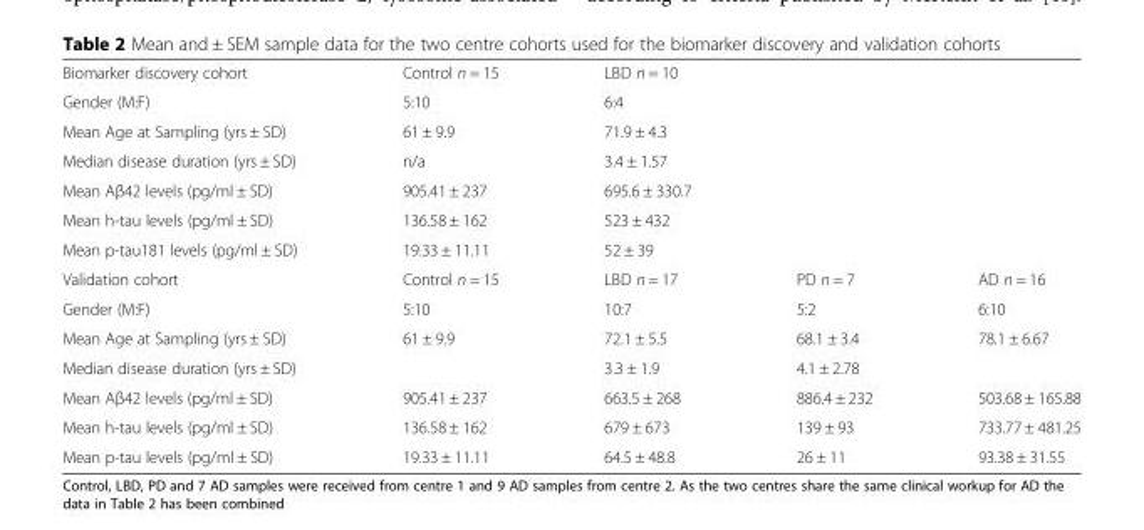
<table><tbody><tr><td>Biomarker discovery cohort</td><td>Control n = 15</td><td>LBD n = 10</td><td></td><td></td></tr><tr><td>Gender (M:F)</td><td>5:10</td><td>6:4</td><td></td><td></td></tr><tr><td>Mean Age at Sampling (yrs ± SD)</td><td>61 ± 9.9</td><td>71.9 ± 4.3</td><td></td><td></td></tr><tr><td>Median disease duration (yrs ± SD)</td><td>n/a</td><td>3.4 ± 1.57</td><td></td><td></td></tr><tr><td>Mean Aβ42 levels (pg/ml ± SD)</td><td>905.41 ± 237</td><td>695.6 ± 330.7</td><td></td><td></td></tr><tr><td>Mean h-tau levels (pg/ml ± SD)</td><td>136.58 ± 162</td><td>523 ± 432</td><td></td><td></td></tr><tr><td>Mean p-tau181 levels (pg/ml ± SD)</td><td>19.33 ± 11.11</td><td>52 ± 39</td><td></td><td></td></tr><tr><td>Validation cohort</td><td>Control n = 15</td><td>LBD n = 17</td><td>PD n = 7</td><td>AD n = 16</td></tr><tr><td>Gender (M:F)</td><td>5:10</td><td>10:7</td><td>5:2</td><td>6:10</td></tr><tr><td>Mean Age at Sampling (yrs ± SD)</td><td>61 ± 9.9</td><td>72.1 ± 5.5</td><td>68.1 ± 3.4</td><td>78.1 ± 6.67</td></tr><tr><td>Median disease duration (yrs ± SD)</td><td></td><td>3.3 ± 1.9</td><td>4.1 ± 2.78</td><td></td></tr><tr><td>Mean Aβ42 levels (pg/ml ± SD)</td><td>905.41 ± 237</td><td>663.5 ± 268</td><td>886.4 ± 232</td><td>503.68 ± 165.88</td></tr><tr><td>Mean h-tau levels (pg/ml ± SD)</td><td>136.58 ± 162</td><td>679 ± 673</td><td>139 ± 93</td><td>733.77 ± 481.25</td></tr><tr><td>Mean p-tau levels (pg/ml ± SD)</td><td>19.33 ± 11.11</td><td>64.5 ± 48.8</td><td>26 ± 11</td><td>93.38 ± 31.55</td></tr></tbody></table>